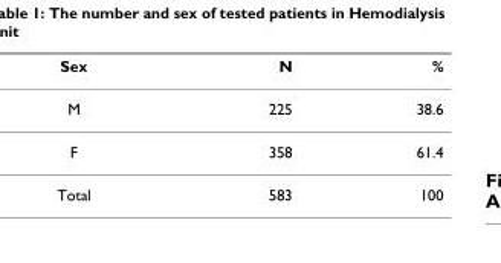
<table><thead><tr><td>Sex</td><td>N</td><td>%</td></tr></thead><tbody><tr><td>M</td><td>225</td><td>38.6</td></tr><tr><td>F</td><td>358</td><td>61.4</td></tr><tr><td>Total</td><td>583</td><td>100</td></tr></tbody></table>